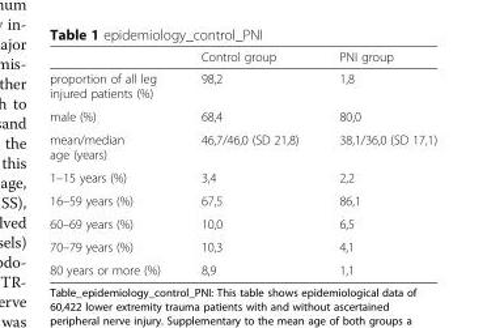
<table><thead><tr><td></td><td>Control group</td><td>PNI group</td></tr></thead><tbody><tr><td>proportion of all leg injured patients (%)</td><td>98,2</td><td>1,8</td></tr><tr><td>male (%)</td><td>68,4</td><td>80,0</td></tr><tr><td>mean/median age (years)</td><td>46,7/46,0 (SD 21,8)</td><td>38,1/36,0 (SD 17,1)</td></tr><tr><td>1–15 years (%)</td><td>3,4</td><td>2,2</td></tr><tr><td>16–59 years (%)</td><td>67,5</td><td>86,1</td></tr><tr><td>60–69 years (%)</td><td>10,0</td><td>6,5</td></tr><tr><td>70–79 years (%)</td><td>10,3</td><td>4,1</td></tr><tr><td>80 years or more (%)</td><td>8,9</td><td>1,1</td></tr></tbody></table>